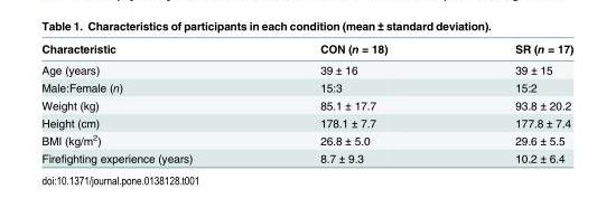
<table><thead><tr><td>Characteristic</td><td>CON (n = 18)</td><td>SR (n = 17)</td></tr></thead><tbody><tr><td>Age (years)</td><td>39 ± 16</td><td>39 ± 15</td></tr><tr><td>Male:Female (n)</td><td>15:3</td><td>15:2</td></tr><tr><td>Weight (kg)</td><td>85.1 ± 17.7</td><td>93.8 ± 20.2</td></tr><tr><td>Height (cm)</td><td>178.1 ± 7.7</td><td>177.8 ± 7.4</td></tr><tr><td>BMI (kg/m<sup>2</sup>)</td><td>26.8 ± 5.0</td><td>29.6 ± 5.5</td></tr><tr><td>Firefighting experience (years)</td><td>8.7 ± 9.3</td><td>10.2 ± 6.4</td></tr></tbody></table>